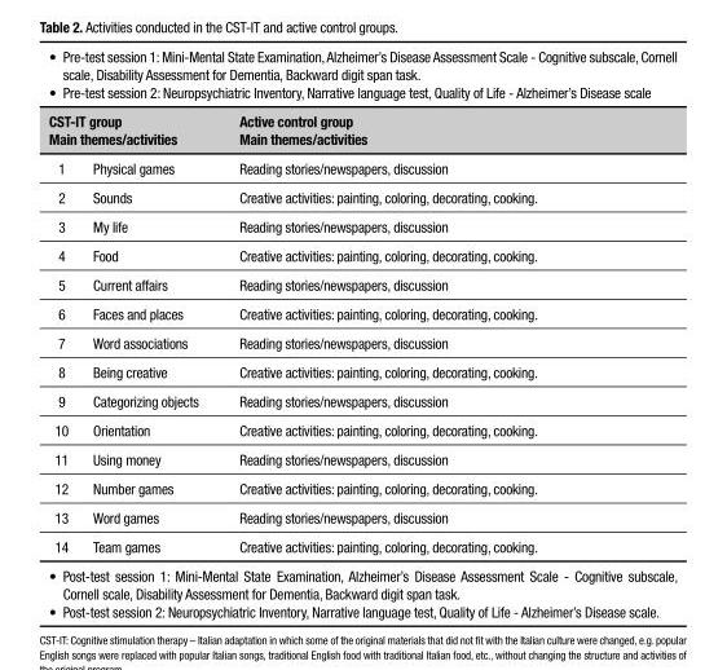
<table><tbody><tr><td colspan="3">• Pre-test session 1: Mini-Mental State Examination, Alzheimer’s Disease Assessment Scale - Cognitive subscale, Cornell scale, Disability Assessment for Dementia, Backward digit span task. • Pre-test session 2: Neuropsychiatric Inventory, Narrative language test, Quality of Life - Alzheimer’s Disease scale</td></tr><tr><td colspan="2">CST-IT group Main themes/activities</td><td>Active control group Main themes/activities</td></tr><tr><td>1</td><td>Physical games</td><td>Reading stories/newspapers, discussion</td></tr><tr><td>2</td><td>Sounds</td><td>Creative activities: painting, coloring, decorating, cooking.</td></tr><tr><td>3</td><td>My life</td><td>Reading stories/newspapers, discussion</td></tr><tr><td>4</td><td>Food</td><td>Creative activities: painting, coloring, decorating, cooking.</td></tr><tr><td>5</td><td>Current affairs</td><td>Reading stories/newspapers, discussion</td></tr><tr><td>6</td><td>Faces and places</td><td>Creative activities: painting, coloring, decorating, cooking.</td></tr><tr><td>7</td><td>Word associations</td><td>Reading stories/newspapers, discussion</td></tr><tr><td>8</td><td>Being creative</td><td>Creative activities: painting, coloring, decorating, cooking.</td></tr><tr><td>9</td><td>Categorizing objects</td><td>Reading stories/newspapers, discussion</td></tr><tr><td>10</td><td>Orientation</td><td>Creative activities: painting, coloring, decorating, cooking.</td></tr><tr><td>11</td><td>Using money</td><td>Reading stories/newspapers, discussion</td></tr><tr><td>12</td><td>Number games</td><td>Creative activities: painting, coloring, decorating, cooking.</td></tr><tr><td>13</td><td>Word games</td><td>Reading stories/newspapers, discussion</td></tr><tr><td>14</td><td>Team games</td><td>Creative activities: painting, coloring, decorating, cooking.</td></tr><tr><td colspan="3">• Post-test session 1: Mini-Mental State Examination, Alzheimer’s Disease Assessment Scale - Cognitive subscale, Cornell scale, Disability Assessment for Dementia, Backward digit span task. • Post-test session 2: Neuropsychiatric Inventory, Narrative language test, Quality of Life - Alzheimer’s Disease scale.</td></tr></tbody></table>